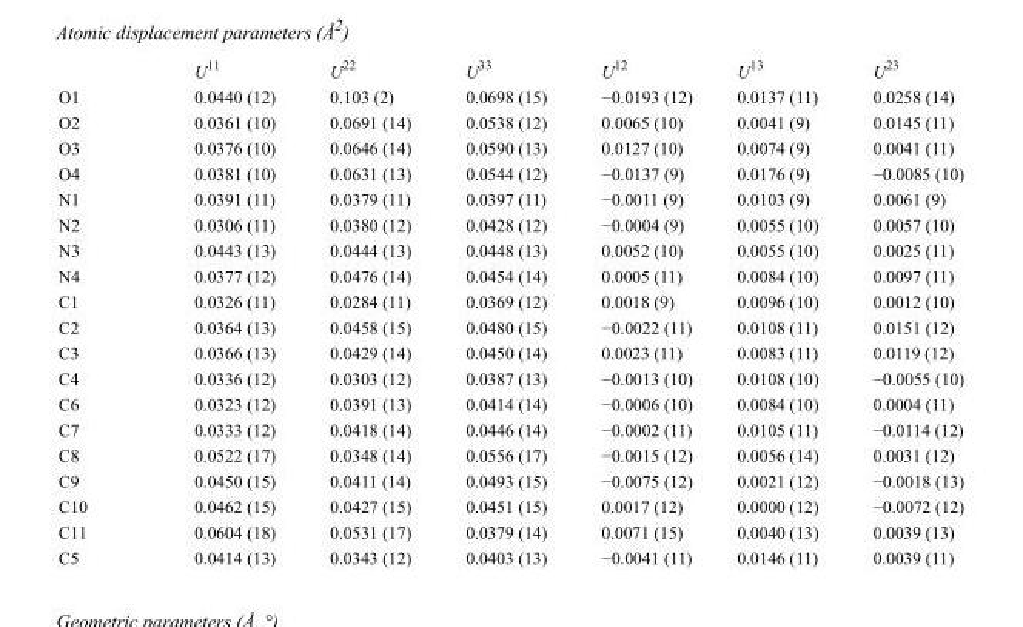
<table><thead><tr><td></td><td>U<sup>11</sup></td><td>U<sup>22</sup></td><td>U<sup>33</sup></td><td>U<sup>12</sup></td><td>U<sup>13</sup></td><td>U<sup>23</sup></td></tr></thead><tbody><tr><td>O1</td><td>0.0440 (12)</td><td>0.103 (2)</td><td>0.0698 (15)</td><td>−0.0193 (12)</td><td>0.0137 (11)</td><td>0.0258 (14)</td></tr><tr><td>O2</td><td>0.0361 (10)</td><td>0.0691 (14)</td><td>0.0538 (12)</td><td>0.0065 (10)</td><td>0.0041 (9)</td><td>0.0145 (11)</td></tr><tr><td>O3</td><td>0.0376 (10)</td><td>0.0646 (14)</td><td>0.0590 (13)</td><td>0.0127 (10)</td><td>0.0074 (9)</td><td>0.0041 (11)</td></tr><tr><td>O4</td><td>0.0381 (10)</td><td>0.0631 (13)</td><td>0.0544 (12)</td><td>−0.0137 (9)</td><td>0.0176 (9)</td><td>−0.0085 (10)</td></tr><tr><td>N1</td><td>0.0391 (11)</td><td>0.0379 (11)</td><td>0.0397 (11)</td><td>−0.0011 (9)</td><td>0.0103 (9)</td><td>0.0061 (9)</td></tr><tr><td>N2</td><td>0.0306 (11)</td><td>0.0380 (12)</td><td>0.0428 (12)</td><td>−0.0004 (9)</td><td>0.0055 (10)</td><td>0.0057 (10)</td></tr><tr><td>N3</td><td>0.0443 (13)</td><td>0.0444 (13)</td><td>0.0448 (13)</td><td>0.0052 (10)</td><td>0.0055 (10)</td><td>0.0025 (11)</td></tr><tr><td>N4</td><td>0.0377 (12)</td><td>0.0476 (14)</td><td>0.0454 (14)</td><td>0.0005 (11)</td><td>0.0084 (10)</td><td>0.0097 (11)</td></tr><tr><td>C1</td><td>0.0326 (11)</td><td>0.0284 (11)</td><td>0.0369 (12)</td><td>0.0018 (9)</td><td>0.0096 (10)</td><td>0.0012 (10)</td></tr><tr><td>C2</td><td>0.0364 (13)</td><td>0.0458 (15)</td><td>0.0480 (15)</td><td>−0.0022 (11)</td><td>0.0108 (11)</td><td>0.0151 (12)</td></tr><tr><td>C3</td><td>0.0366 (13)</td><td>0.0429 (14)</td><td>0.0450 (14)</td><td>0.0023 (11)</td><td>0.0083 (11)</td><td>0.0119 (12)</td></tr><tr><td>C4</td><td>0.0336 (12)</td><td>0.0303 (12)</td><td>0.0387 (13)</td><td>−0.0013 (10)</td><td>0.0108 (10)</td><td>−0.0055 (10)</td></tr><tr><td>C6</td><td>0.0323 (12)</td><td>0.0391 (13)</td><td>0.0414 (14)</td><td>−0.0006 (10)</td><td>0.0084 (10)</td><td>0.0004 (11)</td></tr><tr><td>C7</td><td>0.0333 (12)</td><td>0.0418 (14)</td><td>0.0446 (14)</td><td>−0.0002 (11)</td><td>0.0105 (11)</td><td>−0.0114 (12)</td></tr><tr><td>C8</td><td>0.0522 (17)</td><td>0.0348 (14)</td><td>0.0556 (17)</td><td>−0.0015 (12)</td><td>0.0056 (14)</td><td>0.0031 (12)</td></tr><tr><td>C9</td><td>0.0450 (15)</td><td>0.0411 (14)</td><td>0.0493 (15)</td><td>−0.0075 (12)</td><td>0.0021 (12)</td><td>−0.0018 (13)</td></tr><tr><td>C10</td><td>0.0462 (15)</td><td>0.0427 (15)</td><td>0.0451 (15)</td><td>0.0017 (12)</td><td>0.0000 (12)</td><td>−0.0072 (12)</td></tr><tr><td>C11</td><td>0.0604 (18)</td><td>0.0531 (17)</td><td>0.0379 (14)</td><td>0.0071 (15)</td><td>0.0040 (13)</td><td>0.0039 (13)</td></tr><tr><td>C5</td><td>0.0414 (13)</td><td>0.0343 (12)</td><td>0.0403 (13)</td><td>−0.0041 (11)</td><td>0.0146 (11)</td><td>0.0039 (11)</td></tr></tbody></table>